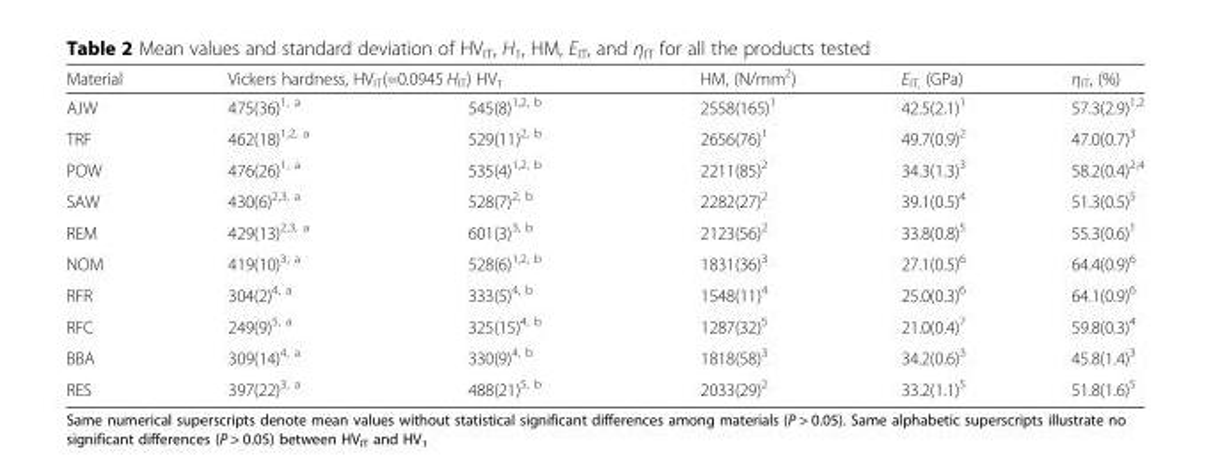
<table><thead><tr><td rowspan="2">Material AJW</td><td colspan="2">Vickers hardness, HV<sub>IT</sub>(=0.0945 H<sub>IT</sub>) HV<sub>1</sub></td><td rowspan="2">HM, (N/mm<sup>2</sup>) 2558(165)<sup>1</sup></td><td rowspan="2">E<sub>ΙΤ,</sub> (GPa) 42.5(2.1)<sup>1</sup></td><td rowspan="2">η<sub>ΙΤ</sub>, (%) 57.3(2.9)<sup>1,2</sup></td></tr><tr><td>475(36)<sup>1, a</sup></td><td>545(8)<sup>1,2, b</sup></td></tr></thead><tbody><tr><td>TRF</td><td>462(18)<sup>1,2, a</sup></td><td>529(11)<sup>2, b</sup></td><td>2656(76)<sup>1</sup></td><td>49.7(0.9)<sup>2</sup></td><td>47.0(0.7)<sup>3</sup></td></tr><tr><td>POW</td><td>476(26)<sup>1, a</sup></td><td>535(4)<sup>1,2, b</sup></td><td>2211(85)<sup>2</sup></td><td>34.3(1.3)<sup>3</sup></td><td>58.2(0.4)<sup>2,4</sup></td></tr><tr><td>SAW</td><td>430(6)<sup>2,3, a</sup></td><td>528(7)<sup>2, b</sup></td><td>2282(27)<sup>2</sup></td><td>39.1(0.5)<sup>4</sup></td><td>51.3(0.5)<sup>5</sup></td></tr><tr><td>REM</td><td>429(13)<sup>2,3, a</sup></td><td>601(3)<sup>3, b</sup></td><td>2123(56)<sup>2</sup></td><td>33.8(0.8)<sup>5</sup></td><td>55.3(0.6)<sup>1</sup></td></tr><tr><td>NOM</td><td>419(10)<sup>3, a</sup></td><td>528(6)<sup>1,2, b</sup></td><td>1831(36)<sup>3</sup></td><td>27.1(0.5)<sup>6</sup></td><td>64.4(0.9)<sup>6</sup></td></tr><tr><td>RFR</td><td>304(2)<sup>4, a</sup></td><td>333(5)<sup>4, b</sup></td><td>1548(11)<sup>4</sup></td><td>25.0(0.3)<sup>6</sup></td><td>64.1(0.9)<sup>6</sup></td></tr><tr><td>RFC</td><td>249(9)<sup>5, a</sup></td><td>325(15)<sup>4, b</sup></td><td>1287(32)<sup>5</sup></td><td>21.0(0.4)<sup>7</sup></td><td>59.8(0.3)<sup>4</sup></td></tr><tr><td>BBA</td><td>309(14)<sup>4, a</sup></td><td>330(9)<sup>4, b</sup></td><td>1818(58)<sup>3</sup></td><td>34.2(0.6)<sup>3</sup></td><td>45.8(1.4)<sup>3</sup></td></tr><tr><td>RES</td><td>397(22)<sup>3, a</sup></td><td>488(21)<sup>5, b</sup></td><td>2033(29)<sup>2</sup></td><td>33.2(1.1)<sup>5</sup></td><td>51.8(1.6)<sup>5</sup></td></tr></tbody></table>